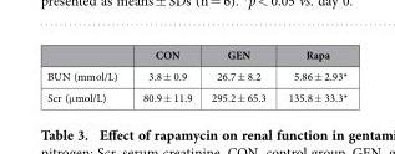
<table><thead><tr><td></td><td>CON</td><td>GEN</td><td>Rapa</td></tr></thead><tbody><tr><td>BUN (mmol/L)</td><td>3.8 ± 0.9</td><td>26.7 ± 8.2</td><td>5.86 ± 2.93*</td></tr><tr><td>Scr (μ mol/L)</td><td>80.9 ± 11.9</td><td>295.2 ± 65.3</td><td>135.8 ± 33.3*</td></tr></tbody></table>